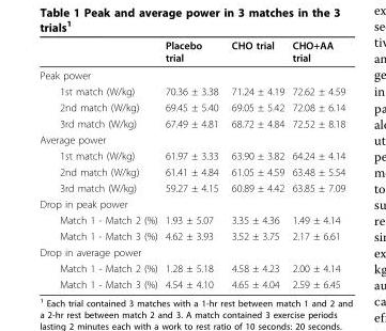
<table><thead><tr><td></td><td>Placebo trial</td><td>CHO trial</td><td>CHO+AA trial</td></tr></thead><tbody><tr><td colspan="4">Peak power</td></tr><tr><td>1st match (W/kg)</td><td>70.36 ± 3.38</td><td>71.24 ± 4.19</td><td>72.62 ± 4.59</td></tr><tr><td>2nd match (W/kg)</td><td>69.45 ± 5.40</td><td>69.05 ± 5.42</td><td>72.08 ± 6.14</td></tr><tr><td>3rd match (W/kg)</td><td>67.49 ± 4.81</td><td>68.72 ± 4.84</td><td>72.52 ± 8.18</td></tr><tr><td colspan="4">Average power</td></tr><tr><td>1st match (W/kg)</td><td>61.97 ± 3.33</td><td>63.90 ± 3.82</td><td>64.24 ± 4.14</td></tr><tr><td>2nd match (W/kg)</td><td>61.41 ± 4.84</td><td>61.05 ± 4.59</td><td>63.48 ± 5.54</td></tr><tr><td>3rd match (W/kg)</td><td>59.27 ± 4.15</td><td>60.89 ± 4.42</td><td>63.85 ± 7.09</td></tr><tr><td colspan="4">Drop in peak power</td></tr><tr><td>Match 1 - Match 2 (%)</td><td>1.93 ± 5.07</td><td>3.35 ± 4.36</td><td>1.49 ± 4.14</td></tr><tr><td>Match 1 - Match 3 (%)</td><td>4.62 ± 3.93</td><td>3.52 ± 3.75</td><td>2.17 ± 6.61</td></tr><tr><td colspan="4">Drop in average power</td></tr><tr><td>Match 1 - Match 2 (%)</td><td>1.28 ± 5.18</td><td>4.58 ± 4.23</td><td>2.00 ± 4.14</td></tr><tr><td>Match 1 - Match 3 (%)</td><td>4.54 ± 4.10</td><td>4.65 ± 4.04</td><td>2.59 ± 6.45</td></tr></tbody></table>